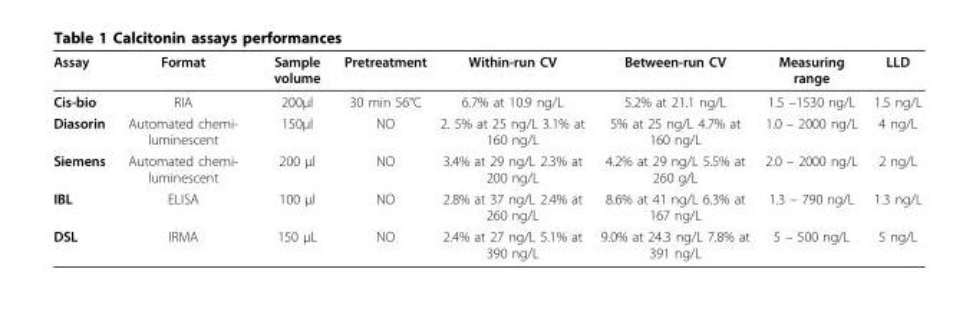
<table><thead><tr><td>Assay</td><td>Format</td><td>Sample volume</td><td>Pretreatment</td><td>Within-run CV</td><td>Between-run CV</td><td>Measuring range</td><td>LLD</td></tr></thead><tbody><tr><td>Cis-bio</td><td>RIA</td><td>200µl</td><td>30 min 56°C</td><td>6.7% at 10.9 ng/L</td><td>5.2% at 21.1 ng/L</td><td>1.5 –1530 ng/L</td><td>1.5 ng/L</td></tr><tr><td>Diasorin</td><td>Automated chemi- luminescent</td><td>150µl</td><td>NO</td><td>2. 5% at 25 ng/L 3.1% at 160 ng/L</td><td>5% at 25 ng/L 4.7% at 160 ng/L</td><td>1.0 – 2000 ng/L</td><td>4 ng/L</td></tr><tr><td>Siemens</td><td>Automated chemi- luminescent</td><td>200 µl</td><td>NO</td><td>3.4% at 29 ng/L 2.3% at 200 ng/L</td><td>4.2% at 29 ng/L 5.5% at 260 g/L</td><td>2.0 – 2000 ng/L</td><td>2 ng/L</td></tr><tr><td>IBL</td><td>ELISA</td><td>100 µl</td><td>NO</td><td>2.8% at 37 ng/L 2.4% at 260 ng/L</td><td>8.6% at 41 ng/L 6.3% at 167 ng/L</td><td>1.3 – 790 ng/L</td><td>1.3 ng/L</td></tr><tr><td>DSL</td><td>IRMA</td><td>150 µL</td><td>NO</td><td>2.4% at 27 ng/L 5.1% at 390 ng/L</td><td>9.0% at 24.3 ng/L 7.8% at 391 ng/L</td><td>5 – 500 ng/L</td><td>5 ng/L</td></tr></tbody></table>